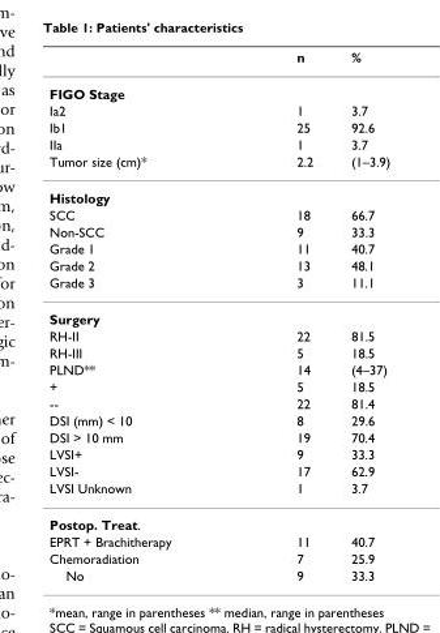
<table><thead><tr><td></td><td>n</td><td>%</td></tr></thead><tbody><tr><td colspan="3">FIGO Stage</td></tr><tr><td>Ia2</td><td>1</td><td>3.7</td></tr><tr><td>Ib1</td><td>25</td><td>92.6</td></tr><tr><td>IIa</td><td>1</td><td>3.7</td></tr><tr><td>Tumor size (cm)*</td><td>2.2</td><td>(1–3.9)</td></tr><tr><td colspan="3">Histology</td></tr><tr><td>SCC</td><td>18</td><td>66.7</td></tr><tr><td>Non-SCC</td><td>9</td><td>33.3</td></tr><tr><td>Grade 1</td><td>11</td><td>40.7</td></tr><tr><td>Grade 2</td><td>13</td><td>48.1</td></tr><tr><td>Grade 3</td><td>3</td><td>11.1</td></tr><tr><td colspan="3">Surgery</td></tr><tr><td>RH-II</td><td>22</td><td>81.5</td></tr><tr><td>RH-III</td><td>5</td><td>18.5</td></tr><tr><td>PLND**</td><td>14</td><td>(4–37)</td></tr><tr><td>+</td><td>5</td><td>18.5</td></tr><tr><td>--</td><td>22</td><td>81.4</td></tr><tr><td>DSI (mm) &lt; 10</td><td>8</td><td>29.6</td></tr><tr><td>DSI &gt; 10 mm</td><td>19</td><td>70.4</td></tr><tr><td>LVSI+</td><td>9</td><td>33.3</td></tr><tr><td>LVSI-</td><td>17</td><td>62.9</td></tr><tr><td>LVSI Unknown</td><td>1</td><td>3.7</td></tr><tr><td colspan="3">Postop. Treat.</td></tr><tr><td>EPRT + Brachitherapy</td><td>11</td><td>40.7</td></tr><tr><td>Chemoradiation</td><td>7</td><td>25.9</td></tr><tr><td>No</td><td>9</td><td>33.3</td></tr></tbody></table>